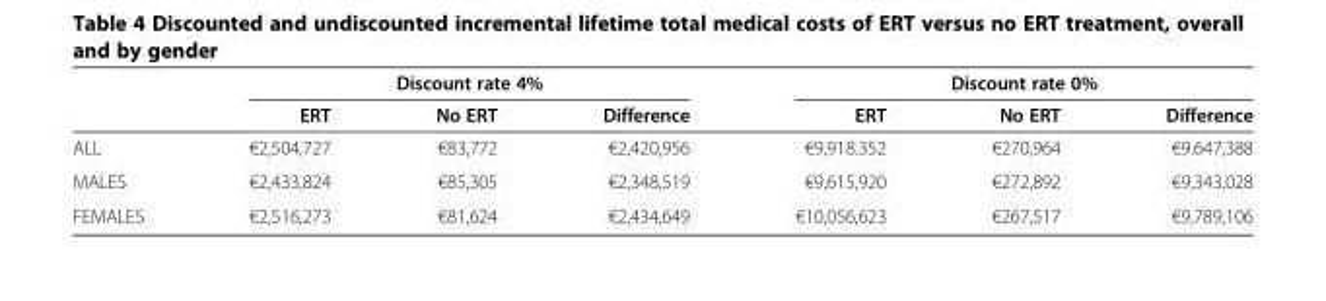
<table><thead><tr><td rowspan="2"></td><td colspan="3">Discount rate 4%</td><td colspan="3">Discount rate 0%</td></tr><tr><td>ERT</td><td>No ERT</td><td>Difference</td><td>ERT</td><td>No ERT</td><td>Difference</td></tr></thead><tbody><tr><td>ALL</td><td>€2,504,727</td><td>€83,772</td><td>€2,420,956</td><td>€9,918.352</td><td>€270,964</td><td>€9.647,388</td></tr><tr><td>MALES</td><td>€2,433,824</td><td>€85,305</td><td>€2,348,519</td><td>€9,615,920</td><td>€272,892</td><td>€9,343,028</td></tr><tr><td>FEMALES</td><td>€2,516,273</td><td>€81,624</td><td>€2,434,649</td><td>€10,056,623</td><td>€267,517</td><td>€9,789,106</td></tr></tbody></table>